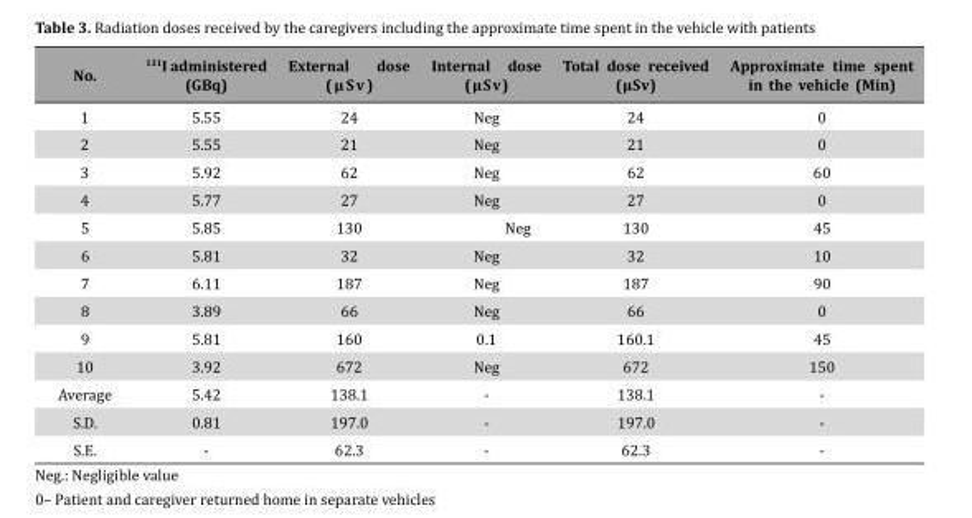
<table><thead><tr><td>No.</td><td><sup>131</sup>I administered (GBq)</td><td>External dose (μSv)</td><td>Internal dose (μSv)</td><td>Total dose received (μSv)</td><td>Approximate time spent in the vehicle (Min)</td></tr></thead><tbody><tr><td>1</td><td>5.55</td><td>24</td><td>Neg</td><td>24</td><td>0</td></tr><tr><td>2</td><td>5.55</td><td>21</td><td>Neg</td><td>21</td><td>0</td></tr><tr><td>3</td><td>5.92</td><td>62</td><td>Neg</td><td>62</td><td>60</td></tr><tr><td>4</td><td>5.77</td><td>27</td><td>Neg</td><td>27</td><td>0</td></tr><tr><td>5</td><td>5.85</td><td>130</td><td>Neg</td><td>130</td><td>45</td></tr><tr><td>6</td><td>5.81</td><td>32</td><td>Neg</td><td>32</td><td>10</td></tr><tr><td>7</td><td>6.11</td><td>187</td><td>Neg</td><td>187</td><td>90</td></tr><tr><td>8</td><td>3.89</td><td>66</td><td>Neg</td><td>66</td><td>0</td></tr><tr><td>9</td><td>5.81</td><td>160</td><td>0.1</td><td>160.1</td><td>45</td></tr><tr><td>10</td><td>3.92</td><td>672</td><td>Neg</td><td>672</td><td>150</td></tr><tr><td>Average</td><td>5.42</td><td>138.1</td><td>-</td><td>138.1</td><td>-</td></tr><tr><td>S.D.</td><td>0.81</td><td>197.0</td><td>-</td><td>197.0</td><td>-</td></tr><tr><td>S.E.</td><td>-</td><td>62.3</td><td>-</td><td>62.3</td><td>-</td></tr></tbody></table>